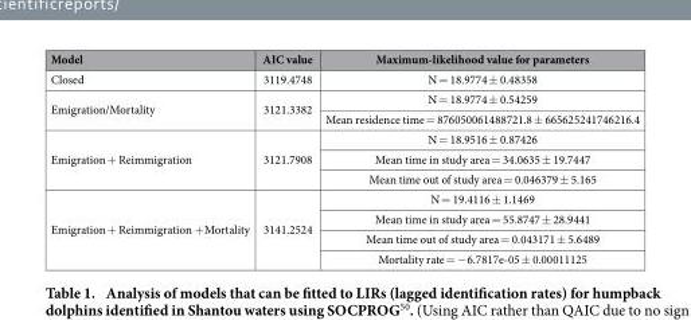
<table><thead><tr><td>Model</td><td>AIC value</td><td>Maximum-likelihood value for parameters</td></tr></thead><tbody><tr><td>Closed</td><td>3119.4748</td><td>N = 18.9774 ± 0.48358</td></tr><tr><td rowspan="2">Emigration/Mortality</td><td rowspan="2">3121.3382</td><td>N = 18.9774 ± 0.54259</td></tr><tr><td>Mean residence time = 876050061488721.8 ± 665625241746216.4</td></tr><tr><td rowspan="3">Emigration + Reimmigration</td><td rowspan="3">3121.7908</td><td>N = 18.9516 ± 0.87426</td></tr><tr><td>Mean time in study area = 34.0635 ± 19.7447</td></tr><tr><td>Mean time out of study area = 0.046379 ± 5.165</td></tr><tr><td rowspan="4">Emigration + Reimmigration + Mortality</td><td rowspan="4">3141.2524</td><td>N = 19.4116 ± 1.1469</td></tr><tr><td>Mean time in study area = 55.8747 ± 28.9441</td></tr><tr><td>Mean time out of study area = 0.043171 ± 5.6489</td></tr><tr><td>Mortality rate = − 6.7817e-05 ± 0.00011125</td></tr></tbody></table>